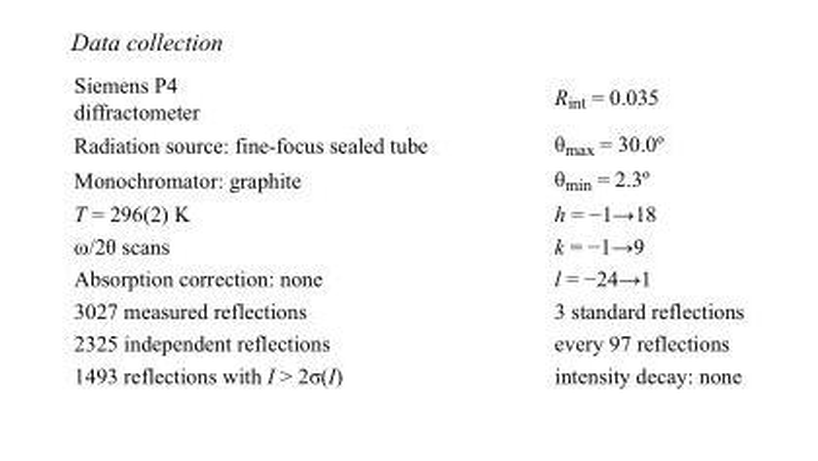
<table><tbody><tr><td>Siemens P4 diffractometer</td><td>R<sub>int</sub> = 0.035</td></tr><tr><td>Radiation source: fine-focus sealed tube</td><td>θ<sub>max</sub> = 30.0º</td></tr><tr><td>Monochromator: graphite</td><td>θ<sub>min</sub> = 2.3º</td></tr><tr><td>T = 296(2) K</td><td>h = −1→18</td></tr><tr><td>ω/2θ scans</td><td>k = −1→9</td></tr><tr><td>Absorption correction: none</td><td>l = −24→1</td></tr><tr><td>3027 measured reflections</td><td>3 standard reflections</td></tr><tr><td>2325 independent reflections</td><td>every 97 reflections</td></tr><tr><td>1493 reflections with I &gt; 2σ(I)</td><td>intensity decay: none</td></tr></tbody></table>